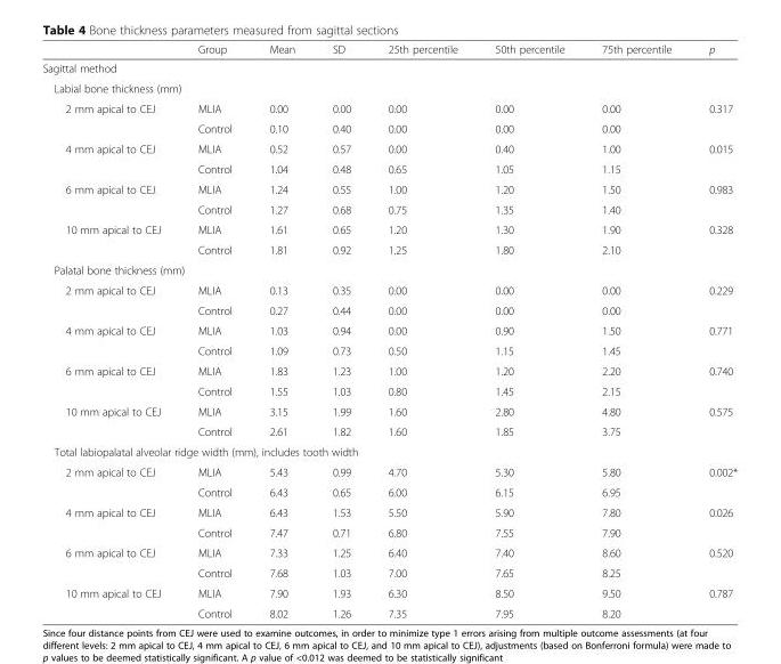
<table><thead><tr><td></td><td>Group</td><td>Mean</td><td>SD</td><td>25th percentile</td><td>50th percentile</td><td>75th percentile</td><td>p</td></tr></thead><tbody><tr><td colspan="8">Sagittal method</td></tr><tr><td colspan="8">Labial bone thickness (mm)</td></tr><tr><td rowspan="2">2 mm apical to CEJ</td><td>MLIA</td><td>0.00</td><td>0.00</td><td>0.00</td><td>0.00</td><td>0.00</td><td rowspan="2">0.317</td></tr><tr><td>Control</td><td>0.10</td><td>0.40</td><td>0.00</td><td>0.00</td><td>0.00</td></tr><tr><td rowspan="2">4 mm apical to CEJ</td><td>MLIA</td><td>0.52</td><td>0.57</td><td>0.00</td><td>0.40</td><td>1.00</td><td rowspan="2">0.015</td></tr><tr><td>Control</td><td>1.04</td><td>0.48</td><td>0.65</td><td>1.05</td><td>1.15</td></tr><tr><td rowspan="2">6 mm apical to CEJ</td><td>MLIA</td><td>1.24</td><td>0.55</td><td>1.00</td><td>1.20</td><td>1.50</td><td rowspan="2">0.983</td></tr><tr><td>Control</td><td>1.27</td><td>0.68</td><td>0.75</td><td>1.35</td><td>1.40</td></tr><tr><td rowspan="2">10 mm apical to CEJ</td><td>MLIA</td><td>1.61</td><td>0.65</td><td>1.20</td><td>1.30</td><td>1.90</td><td>0.328</td></tr><tr><td>Control</td><td>1.81</td><td>0.92</td><td>1.25</td><td>1.80</td><td>2.10</td><td></td></tr><tr><td colspan="8">Palatal bone thickness (mm)</td></tr><tr><td rowspan="2">2 mm apical to CEJ</td><td>MLIA</td><td>0.13</td><td>0.35</td><td>0.00</td><td>0.00</td><td>0.00</td><td>0.229</td></tr><tr><td>Control</td><td>0.27</td><td>0.44</td><td>0.00</td><td>0.00</td><td>0.00</td><td></td></tr><tr><td rowspan="2">4 mm apical to CEJ</td><td>MLIA</td><td>1.03</td><td>0.94</td><td>0.00</td><td>0.90</td><td>1.50</td><td>0.771</td></tr><tr><td>Control</td><td>1.09</td><td>0.73</td><td>0.50</td><td>1.15</td><td>1.45</td><td></td></tr><tr><td rowspan="2">6 mm apical to CEJ</td><td>MLIA</td><td>1.83</td><td>1.23</td><td>1.00</td><td>1.20</td><td>2.20</td><td>0.740</td></tr><tr><td>Control</td><td>1.55</td><td>1.03</td><td>0.80</td><td>1.45</td><td>2.15</td><td></td></tr><tr><td rowspan="2">10 mm apical to CEJ</td><td>MLIA</td><td>3.15</td><td>1.99</td><td>1.60</td><td>2.80</td><td>4.80</td><td>0.575</td></tr><tr><td>Control</td><td>2.61</td><td>1.82</td><td>1.60</td><td>1.85</td><td>3.75</td><td></td></tr><tr><td colspan="8">Total labiopalatal alveolar ridge width (mm), includes tooth width</td></tr><tr><td rowspan="2">2 mm apical to CEJ</td><td>MLIA</td><td>5.43</td><td>0.99</td><td>4.70</td><td>5.30</td><td>5.80</td><td>0.002*</td></tr><tr><td>Control</td><td>6.43</td><td>0.65</td><td>6.00</td><td>6.15</td><td>6.95</td><td></td></tr><tr><td rowspan="2">4 mm apical to CEJ</td><td>MLIA</td><td>6.43</td><td>1.53</td><td>5.50</td><td>5.90</td><td>7.80</td><td>0.026</td></tr><tr><td>Control</td><td>7.47</td><td>0.71</td><td>6.80</td><td>7.55</td><td>7.90</td><td></td></tr><tr><td rowspan="2">6 mm apical to CEJ</td><td>MLIA</td><td>7.33</td><td>1.25</td><td>6.40</td><td>7.40</td><td>8.60</td><td>0.520</td></tr><tr><td>Control</td><td>7.68</td><td>1.03</td><td>7.00</td><td>7.65</td><td>8.25</td><td></td></tr><tr><td rowspan="2">10 mm apical to CEJ</td><td>MLIA</td><td>7.90</td><td>1.93</td><td>6.30</td><td>8.50</td><td>9.50</td><td>0.787</td></tr><tr><td>Control</td><td>8.02</td><td>1.26</td><td>7.35</td><td>7.95</td><td>8.20</td><td></td></tr></tbody></table>